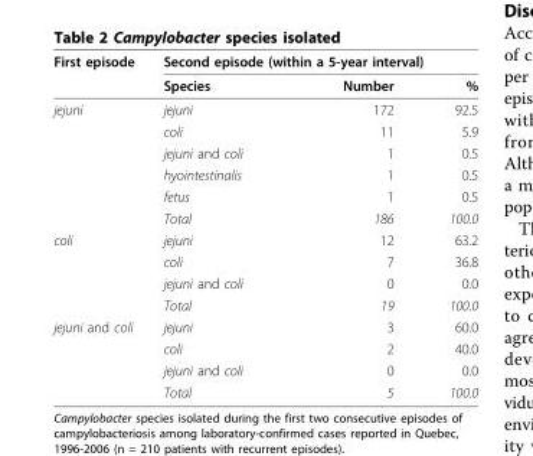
<table><thead><tr><td rowspan="2">First episode</td><td colspan="3">Second episode (within a 5-year interval)</td></tr><tr><td>Species</td><td>Number</td><td>%</td></tr></thead><tbody><tr><td rowspan="6">jejuni</td><td>jejuni</td><td>172</td><td>92.5</td></tr><tr><td>coli</td><td>11</td><td>5.9</td></tr><tr><td>jejuni and coli</td><td>1</td><td>0.5</td></tr><tr><td>hyointestinalis</td><td>1</td><td>0.5</td></tr><tr><td>fetus</td><td>1</td><td>0.5</td></tr><tr><td>Total</td><td>186</td><td>100.0</td></tr><tr><td rowspan="4">coli</td><td>jejuni</td><td>12</td><td>63.2</td></tr><tr><td>coli</td><td>7</td><td>36.8</td></tr><tr><td>jejuni and coli</td><td>0</td><td>0.0</td></tr><tr><td>Total</td><td>19</td><td>100.0</td></tr><tr><td rowspan="4">jejuni and coli</td><td>jejuni</td><td>3</td><td>60.0</td></tr><tr><td>coli</td><td>2</td><td>40.0</td></tr><tr><td>jejuni and coli</td><td>0</td><td>0.0</td></tr><tr><td>Total</td><td>5</td><td>100.0</td></tr></tbody></table>